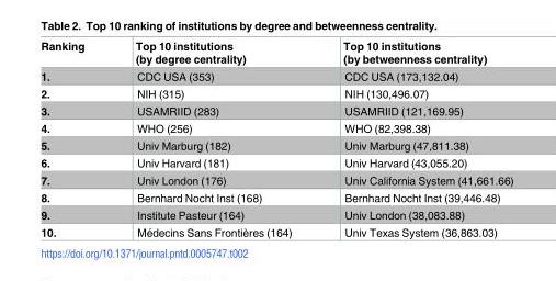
<table><thead><tr><td>Ranking</td><td>Top 10 institutions (by degree centrality)</td><td>Top 10 institutions (by betweenness centrality)</td></tr></thead><tbody><tr><td>1.</td><td>CDC USA (353)</td><td>CDC USA (173,132.04)</td></tr><tr><td>2.</td><td>NIH (315)</td><td>NIH (130,496.07)</td></tr><tr><td>3.</td><td>USAMRIID (283)</td><td>USAMRIID (121,169.95)</td></tr><tr><td>4.</td><td>WHO (256)</td><td>WHO (82,398.38)</td></tr><tr><td>5.</td><td>Univ Marburg (182)</td><td>Univ Marburg (47,811.38)</td></tr><tr><td>6.</td><td>Univ Harvard (181)</td><td>Univ Harvard (43,055.20)</td></tr><tr><td>7.</td><td>Univ London (176)</td><td>Univ California System (41,661.66)</td></tr><tr><td>8.</td><td>Bernhard Nocht Inst (168)</td><td>Bernhard Nocht Inst (39,446.48)</td></tr><tr><td>9.</td><td>Institute Pasteur (164)</td><td>Univ London (38,083.88)</td></tr><tr><td>10.</td><td>Me´decins Sans Frontières (164)</td><td>Univ Texas System (36,863.03)</td></tr></tbody></table>